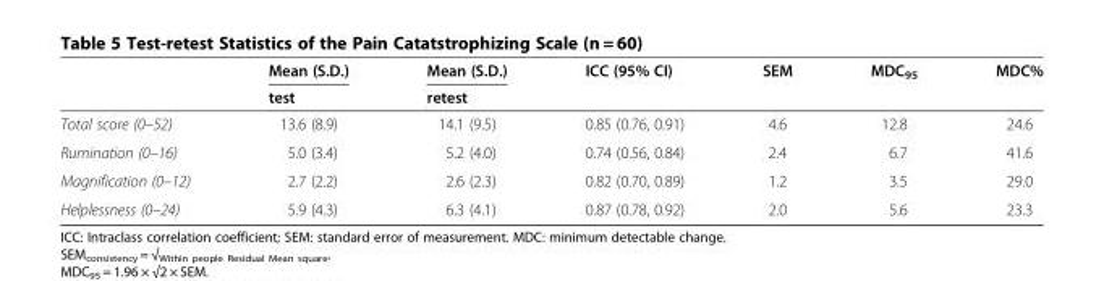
<table><thead><tr><td rowspan="2"></td><td rowspan="2">Mean (S.D.) test</td><td rowspan="2">Mean (S.D.) retest</td><td rowspan="2">ICC (95% CI)</td><td rowspan="2">SEM</td><td rowspan="2">MDC<sub>95</sub></td><td rowspan="2">MDC%</td></tr><tr></tr></thead><tbody><tr><td>Total score (0–52)</td><td>13.6 (8.9)</td><td>14.1 (9.5)</td><td>0.85 (0.76, 0.91)</td><td>4.6</td><td>12.8</td><td>24.6</td></tr><tr><td>Rumination (0–16)</td><td>5.0 (3.4)</td><td>5.2 (4.0)</td><td>0.74 (0.56, 0.84)</td><td>2.4</td><td>6.7</td><td>41.6</td></tr><tr><td>Magnification (0–12)</td><td>2.7 (2.2)</td><td>2.6 (2.3)</td><td>0.82 (0.70, 0.89)</td><td>1.2</td><td>3.5</td><td>29.0</td></tr><tr><td>Helplessness (0–24)</td><td>5.9 (4.3)</td><td>6.3 (4.1)</td><td>0.87 (0.78, 0.92)</td><td>2.0</td><td>5.6</td><td>23.3</td></tr></tbody></table>